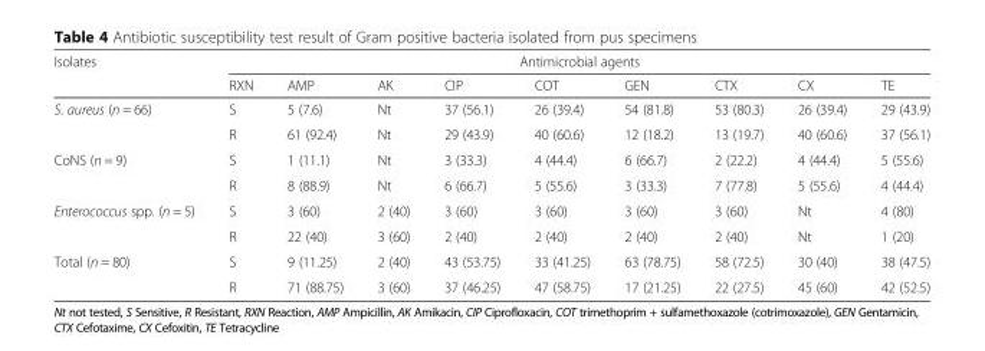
<table><thead><tr><td rowspan="2">Isolates</td><td colspan="9">Antimicrobial agents</td></tr><tr><td>RXN</td><td>AMP</td><td>AK</td><td>CIP</td><td>COT</td><td>GEN</td><td>CTX</td><td>CX</td><td>TE</td></tr></thead><tbody><tr><td rowspan="2">S. aureus (n = 66)</td><td>S</td><td>5 (7.6)</td><td>Nt</td><td>37 (56.1)</td><td>26 (39.4)</td><td>54 (81.8)</td><td>53 (80.3)</td><td>26 (39.4)</td><td>29 (43.9)</td></tr><tr><td>R</td><td>61 (92.4)</td><td>Nt</td><td>29 (43.9)</td><td>40 (60.6)</td><td>12 (18.2)</td><td>13 (19.7)</td><td>40 (60.6)</td><td>37 (56.1)</td></tr><tr><td rowspan="2">CoNS (n = 9)</td><td>S</td><td>1 (11.1)</td><td>Nt</td><td>3 (33.3)</td><td>4 (44.4)</td><td>6 (66.7)</td><td>2 (22.2)</td><td>4 (44.4)</td><td>5 (55.6)</td></tr><tr><td>R</td><td>8 (88.9)</td><td>Nt</td><td>6 (66.7)</td><td>5 (55.6)</td><td>3 (33.3)</td><td>7 (77.8)</td><td>5 (55.6)</td><td>4 (44.4)</td></tr><tr><td rowspan="2">Enterococcus spp. (n = 5)</td><td>S</td><td>3 (60)</td><td>2 (40)</td><td>3 (60)</td><td>3 (60)</td><td>3 (60)</td><td>3 (60)</td><td>Nt</td><td>4 (80)</td></tr><tr><td>R</td><td>22 (40)</td><td>3 (60)</td><td>2 (40)</td><td>2 (40)</td><td>2 (40)</td><td>2 (40)</td><td>Nt</td><td>1 (20)</td></tr><tr><td rowspan="2">Total (n = 80)</td><td>S</td><td>9 (11.25)</td><td>2 (40)</td><td>43 (53.75)</td><td>33 (41.25)</td><td>63 (78.75)</td><td>58 (72.5)</td><td>30 (40)</td><td>38 (47.5)</td></tr><tr><td>R</td><td>71 (88.75)</td><td>3 (60)</td><td>37 (46.25)</td><td>47 (58.75)</td><td>17 (21.25)</td><td>22 (27.5)</td><td>45 (60)</td><td>42 (52.5)</td></tr></tbody></table>